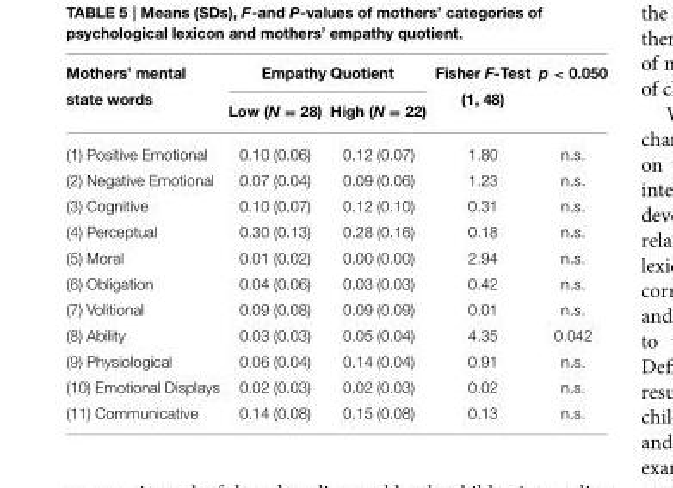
<table><thead><tr><td rowspan="2">Mothers’ mental state words</td><td colspan="2">Empathy Quotient</td><td rowspan="2">Fisher F-Test (1, 48)</td><td rowspan="2">p &lt; 0.050</td></tr><tr><td>Low (N = 28)</td><td>High (N = 22)</td></tr></thead><tbody><tr><td>(1) Positive Emotional</td><td>0.10 (0.06)</td><td>0.12 (0.07)</td><td>1.80</td><td>n.s.</td></tr><tr><td>(2) Negative Emotional</td><td>0.07 (0.04)</td><td>0.09 (0.06)</td><td>1.23</td><td>n.s.</td></tr><tr><td>(3) Cognitive</td><td>0.10 (0.07)</td><td>0.12 (0.10)</td><td>0.31</td><td>n.s.</td></tr><tr><td>(4) Perceptual</td><td>0.30 (0.13)</td><td>0.28 (0.16)</td><td>0.18</td><td>n.s.</td></tr><tr><td>(5) Moral</td><td>0.01 (0.02)</td><td>0.00 (0.00)</td><td>2.94</td><td>n.s.</td></tr><tr><td>(6) Obligation</td><td>0.04 (0.06)</td><td>0.03 (0.03)</td><td>0.42</td><td>n.s.</td></tr><tr><td>(7) Volitional</td><td>0.09 (0.08)</td><td>0.09 (0.09)</td><td>0.01</td><td>n.s.</td></tr><tr><td>(8) Ability</td><td>0.03 (0.03)</td><td>0.05 (0.04)</td><td>4.35</td><td>0.042</td></tr><tr><td>(9) Physiological</td><td>0.06 (0.04)</td><td>0.14 (0.04)</td><td>0.91</td><td>n.s.</td></tr><tr><td>(10) Emotional Displays</td><td>0.02 (0.03)</td><td>0.02 (0.03)</td><td>0.02</td><td>n.s.</td></tr><tr><td>(11) Communicative</td><td>0.14 (0.08)</td><td>0.15 (0.08)</td><td>0.13</td><td>n.s.</td></tr></tbody></table>